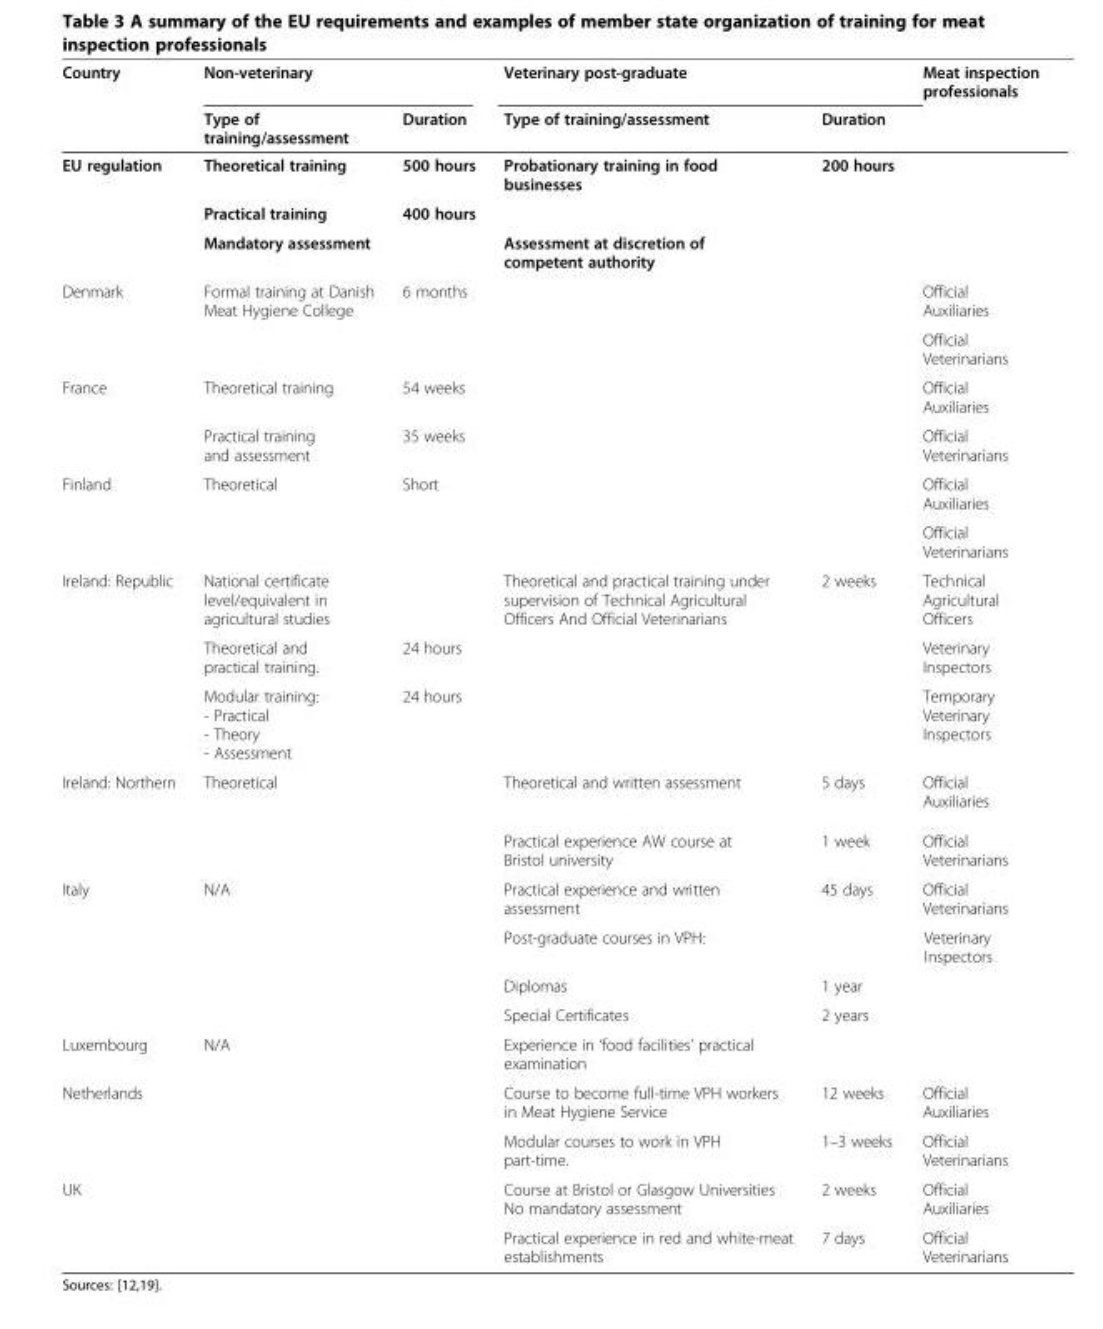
<table><thead><tr><td rowspan="2">Country</td><td colspan="2">Non-veterinary</td><td colspan="2">Veterinary post-graduate</td><td rowspan="2">Meat inspection professionals</td></tr><tr><td>Type of training/assessment</td><td>Duration</td><td>Type of training/assessment</td><td>Duration</td></tr></thead><tbody><tr><td rowspan="3">EU regulation</td><td>Theoretical training</td><td>500 hours</td><td>Probationary training in food businesses</td><td>200 hours</td><td></td></tr><tr><td>Practical training</td><td>400 hours</td><td></td><td></td><td></td></tr><tr><td>Mandatory assessment</td><td></td><td>Assessment at discretion of competent authority</td><td></td><td></td></tr><tr><td rowspan="2">Denmark</td><td>Formal training at Danish Meat Hygiene College</td><td>6 months</td><td></td><td></td><td>Official Auxiliaries</td></tr><tr><td></td><td></td><td></td><td></td><td>Official Veterinarians</td></tr><tr><td rowspan="2">France</td><td>Theoretical training</td><td>54 weeks</td><td></td><td></td><td>Official Auxiliaries</td></tr><tr><td>Practical training and assessment</td><td>35 weeks</td><td></td><td></td><td>Official Veterinarians</td></tr><tr><td rowspan="2">Finland</td><td>Theoretical</td><td>Short</td><td></td><td></td><td>Official Auxiliaries</td></tr><tr><td></td><td></td><td></td><td></td><td>Official Veterinarians</td></tr><tr><td rowspan="3">Ireland: Republic</td><td>National certificate level/equivalent in agricultural studies</td><td></td><td>Theoretical and practical training under supervision of Technical Agricultural Officers And Official Veterinarians</td><td>2 weeks</td><td>Technical Agricultural Officers</td></tr><tr><td>Theoretical and practical training.</td><td>24 hours</td><td></td><td></td><td>Veterinary Inspectors</td></tr><tr><td>Modular training: - Practical - Theory - Assessment</td><td>24 hours</td><td></td><td></td><td>Temporary Veterinary Inspectors</td></tr><tr><td rowspan="2">Ireland: Northern</td><td>Theoretical</td><td></td><td>Theoretical and written assessment</td><td>5 days</td><td>Official Auxiliaries</td></tr><tr><td></td><td></td><td>Practical experience AW course at Bristol university</td><td>1 week</td><td>Official Veterinarians</td></tr><tr><td rowspan="4">Italy</td><td>N/A</td><td></td><td>Practical experience and written assessment</td><td>45 days</td><td>Official Veterinarians</td></tr><tr><td></td><td></td><td>Post-graduate courses in VPH:</td><td></td><td>Veterinary Inspectors</td></tr><tr><td></td><td></td><td>Diplomas</td><td>1 year</td><td></td></tr><tr><td></td><td></td><td>Special Certificates</td><td>2 years</td><td></td></tr><tr><td>Luxembourg</td><td>N/A</td><td></td><td>Experience in ‘food facilities’ practical examination</td><td></td><td></td></tr><tr><td rowspan="2">Netherlands</td><td></td><td></td><td>Course to become full-time VPH workers in Meat Hygiene Service</td><td>12 weeks</td><td>Official Auxiliaries</td></tr><tr><td></td><td></td><td>Modular courses to work in VPH part-time.</td><td>1–3 weeks</td><td>Official Veterinarians</td></tr><tr><td rowspan="2">UK</td><td></td><td></td><td>Course at Bristol or Glasgow Universities No mandatory assessment</td><td>2 weeks</td><td>Official Auxiliaries</td></tr><tr><td></td><td></td><td>Practical experience in red and white-meat establishments</td><td>7 days</td><td>Official Veterinarians</td></tr></tbody></table>